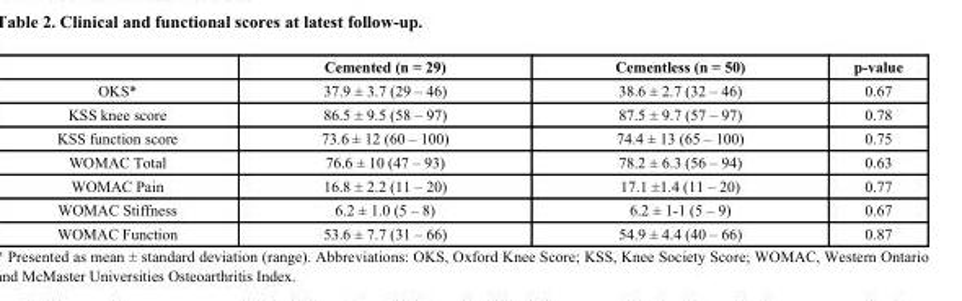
<table><thead><tr><td></td><td>Cemented (n = 29)</td><td>Cementless (n = 50)</td><td>p-value</td></tr></thead><tbody><tr><td>OKS*</td><td>37.9 ± 3.7 (29 – 46)</td><td>38.6 ± 2.7 (32 – 46)</td><td>0.67</td></tr><tr><td>KSS knee score</td><td>86.5 ± 9.5 (58 – 97)</td><td>87.5 ± 9.7 (57 – 97)</td><td>0.78</td></tr><tr><td>KSS function score</td><td>73.6 ± 12 (60 – 100)</td><td>74.4 ± 13 (65 – 100)</td><td>0.75</td></tr><tr><td>WOMAC Total</td><td>76.6 ± 10 (47 – 93)</td><td>78.2 ± 6.3 (56 – 94)</td><td>0.63</td></tr><tr><td>WOMAC Pain</td><td>16.8 ± 2.2 (11 – 20)</td><td>17.1 ±1.4 (11 – 20)</td><td>0.77</td></tr><tr><td>WOMAC Stiffness</td><td>6.2 ± 1.0 (5 – 8)</td><td>6.2 ± 1-1 (5 – 9)</td><td>0.67</td></tr><tr><td>WOMAC Function</td><td>53.6 ± 7.7 (31 – 66)</td><td>54.9 ± 4.4 (40 – 66)</td><td>0.87</td></tr></tbody></table>